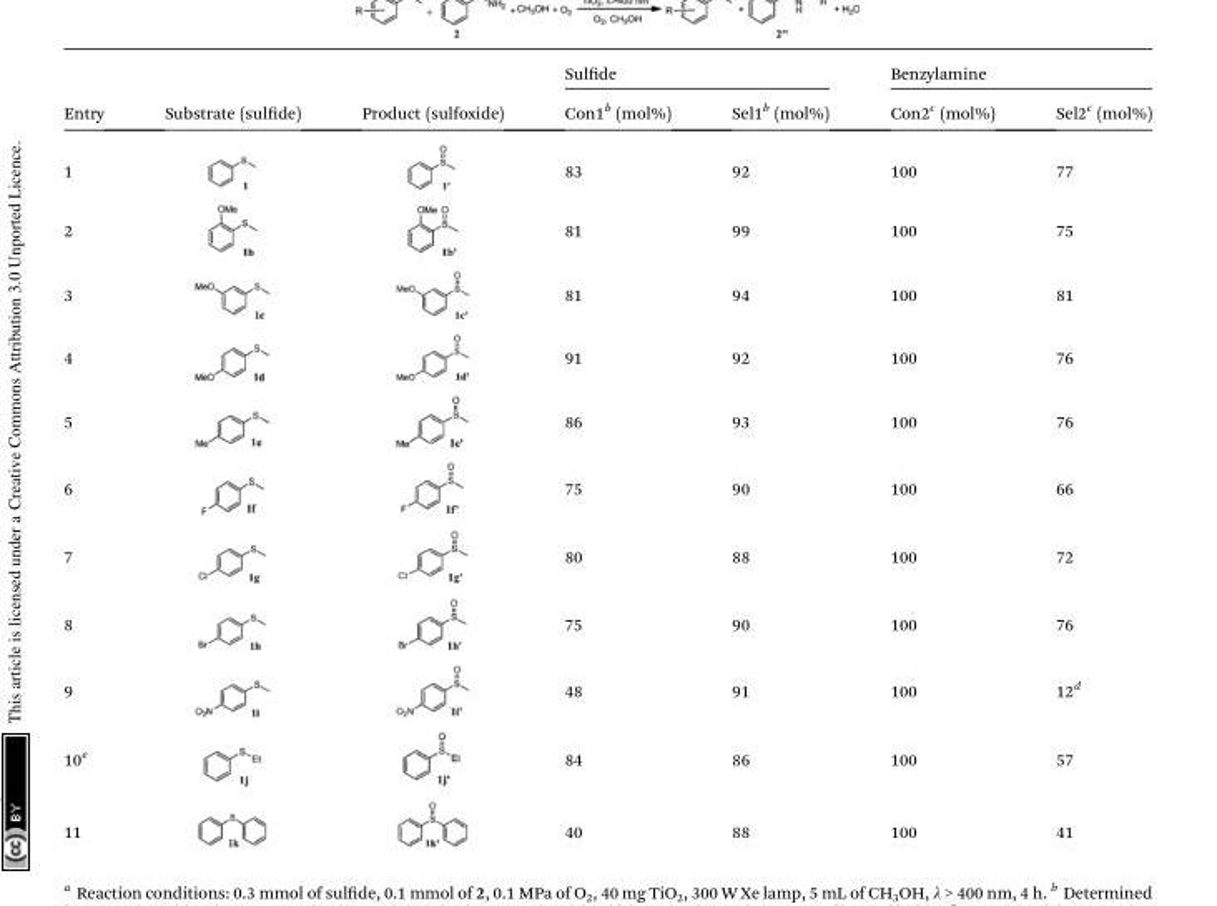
<table><thead><tr><td rowspan="2">Entry</td><td rowspan="2">Substrate (sulde)</td><td rowspan="2">Product (sulfoxide)</td><td colspan="2">Sulde</td><td colspan="2">Benzylamine</td></tr><tr><td>Con1<sup>b</sup> (mol%)</td><td>Sel1<sup>b</sup> (mol%)</td><td>Con2<sup>c</sup> (mol%)</td><td>Sel2<sup>c</sup> (mol%)</td></tr></thead><tbody><tr><td>1</td><td></td><td></td><td>83</td><td>92</td><td>100</td><td>77</td></tr><tr><td>2</td><td></td><td></td><td>81</td><td>99</td><td>100</td><td>75</td></tr><tr><td>3</td><td></td><td></td><td>81</td><td>94</td><td>100</td><td>81</td></tr><tr><td>4</td><td></td><td></td><td>91</td><td>92</td><td>100</td><td>76</td></tr><tr><td>5</td><td></td><td></td><td>86</td><td>93</td><td>100</td><td>76</td></tr><tr><td>6</td><td></td><td></td><td>75</td><td>90</td><td>100</td><td>66</td></tr><tr><td>7</td><td></td><td></td><td>80</td><td>88</td><td>100</td><td>72</td></tr><tr><td>8</td><td></td><td></td><td>75</td><td>90</td><td>100</td><td>76</td></tr><tr><td>9</td><td></td><td></td><td>48</td><td>91</td><td>100</td><td>12<sup>d</sup></td></tr><tr><td>10<sup>e</sup></td><td></td><td></td><td>84</td><td>86</td><td>100</td><td>57</td></tr><tr><td>11</td><td></td><td></td><td>40</td><td>88</td><td>100</td><td>41</td></tr></tbody></table>